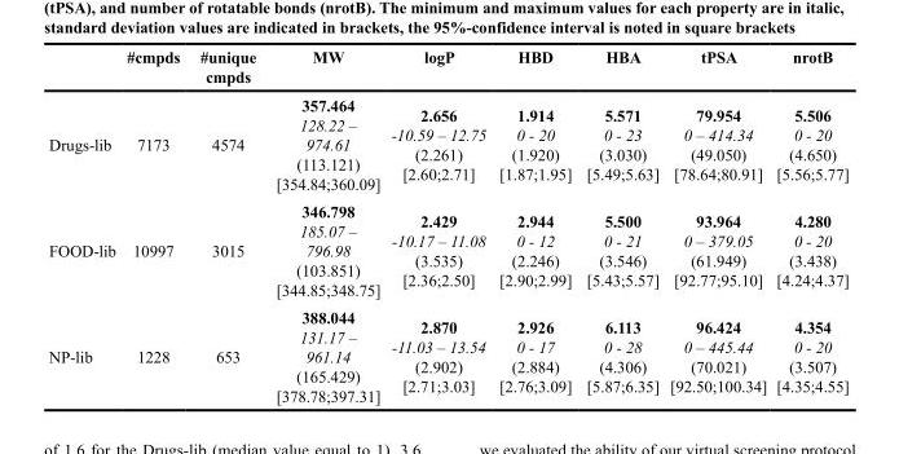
<table><thead><tr><td></td><td>#cmpds</td><td>#unique cmpds</td><td>MW</td><td>logP</td><td>HBD</td><td>HBA</td><td>tPSA</td><td>nrotB</td></tr></thead><tbody><tr><td>Drugs-lib</td><td>7173</td><td>4574</td><td>357.464 128.22 – 974.61 (113.121) [354.84;360.09]</td><td>2.656 -10.59 – 12.75 (2.261) [2.60;2.71]</td><td>1.914 0 - 20 (1.920) [1.87;1.95]</td><td>5.571 0 - 23 (3.030) [5.49;5.63]</td><td>79.954 0 – 414.34 (49.050) [78.64;80.91]</td><td>5.506 0 - 20 (4.650) [5.56;5.77]</td></tr><tr><td>FOOD-lib</td><td>10997</td><td>3015</td><td>346.798 185.07 – 796.98 (103.851) [344.85;348.75]</td><td>2.429 -10.17 – 11.08 (3.535) [2.36;2.50]</td><td>2.944 0 - 12 (2.246) [2.90;2.99]</td><td>5.500 0 - 21 (3.546) [5.43;5.57]</td><td>93.964 0 – 379.05 (61.949) [92.77;95.10]</td><td>4.280 0 - 20 (3.438) [4.24;4.37]</td></tr><tr><td>NP-lib</td><td>1228</td><td>653</td><td>388.044 131.17 – 961.14 (165.429) [378.78;397.31]</td><td>2.870 -11.03 – 13.54 (2.902) [2.71;3.03]</td><td>2.926 0 - 17 (2.884) [2.76;3.09]</td><td>6.113 0 - 28 (4.306) [5.87;6.35]</td><td>96.424 0 – 445.44 (70.021) [92.50;100.34]</td><td>4.354 0 - 20 (3.507) [4.35;4.55]</td></tr></tbody></table>